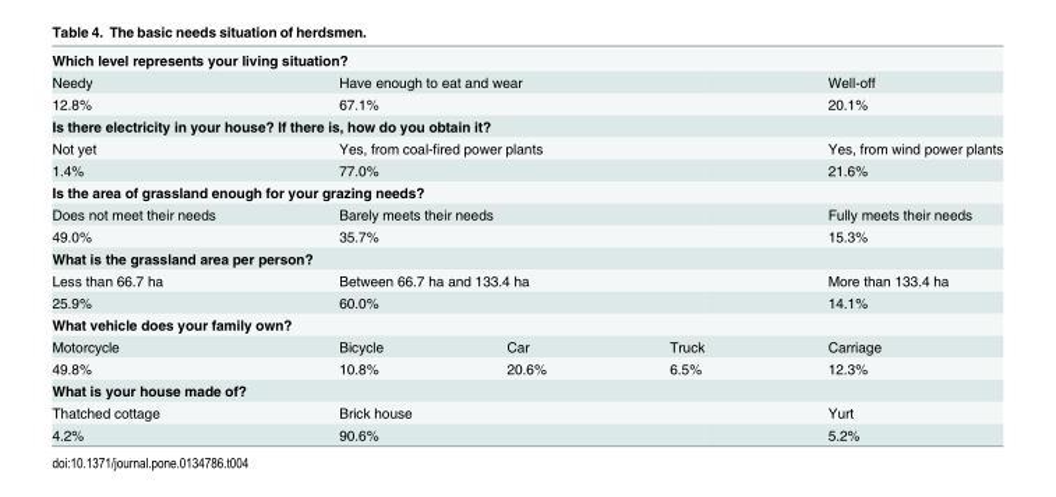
<table><tbody><tr><td colspan="5">Which level represents your living situation?</td></tr><tr><td>Needy</td><td colspan="3">Have enough to eat and wear</td><td>Well-off</td></tr><tr><td>12.8%</td><td colspan="3">67.1%</td><td>20.1%</td></tr><tr><td colspan="5">Is there electricity in your house? If there is, how do you obtain it?</td></tr><tr><td>Not yet</td><td colspan="3">Yes, from coal-fired power plants</td><td>Yes, from wind power plants</td></tr><tr><td>1.4%</td><td colspan="3">77.0%</td><td>21.6%</td></tr><tr><td colspan="5">Is the area of grassland enough for your grazing needs?</td></tr><tr><td>Does not meet their needs</td><td colspan="3">Barely meets their needs</td><td>Fully meets their needs</td></tr><tr><td>49.0%</td><td colspan="3">35.7%</td><td>15.3%</td></tr><tr><td colspan="5">What is the grassland area per person?</td></tr><tr><td>Less than 66.7 ha</td><td colspan="3">Between 66.7 ha and 133.4 ha</td><td>More than 133.4 ha</td></tr><tr><td>25.9%</td><td colspan="3">60.0%</td><td>14.1%</td></tr><tr><td colspan="5">What vehicle does your family own?</td></tr><tr><td>Motorcycle</td><td>Bicycle</td><td>Car</td><td>Truck</td><td>Carriage</td></tr><tr><td>49.8%</td><td>10.8%</td><td>20.6%</td><td>6.5%</td><td>12.3%</td></tr><tr><td colspan="5">What is your house made of?</td></tr><tr><td>Thatched cottage</td><td colspan="3">Brick house</td><td>Yurt</td></tr><tr><td>4.2%</td><td colspan="3">90.6%</td><td>5.2%</td></tr></tbody></table>